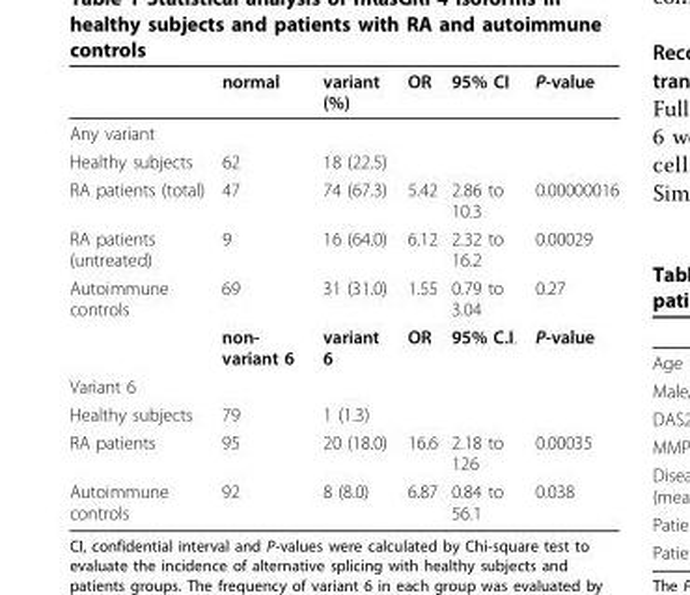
<table><thead><tr><td></td><td>normal</td><td>variant (%)</td><td>OR</td><td>95% CI</td><td>P-value</td></tr></thead><tbody><tr><td colspan="6">Any variant</td></tr><tr><td>Healthy subjects</td><td>62</td><td>18 (22.5)</td><td></td><td></td><td></td></tr><tr><td>RA patients (total)</td><td>47</td><td>74 (67.3)</td><td>5.42</td><td>2.86 to 10.3</td><td>0.00000016</td></tr><tr><td>RA patients (untreated)</td><td>9</td><td>16 (64.0)</td><td>6.12</td><td>2.32 to 16.2</td><td>0.00029</td></tr><tr><td rowspan="2">Autoimmune controls</td><td>69</td><td>31 (31.0)</td><td>1.55</td><td>0.79 to 3.04</td><td>0.27</td></tr><tr><td>non- variant 6</td><td>variant 6</td><td>OR</td><td>95% C.I.</td><td>P-value</td></tr><tr><td colspan="6">Variant 6</td></tr><tr><td>Healthy subjects</td><td>79</td><td>1 (1.3)</td><td></td><td></td><td></td></tr><tr><td>RA patients</td><td>95</td><td>20 (18.0)</td><td>16.6</td><td>2.18 to 126</td><td>0.00035</td></tr><tr><td>Autoimmune controls</td><td>92</td><td>8 (8.0)</td><td>6.87</td><td>0.84 to 56.1</td><td>0.038</td></tr></tbody></table>